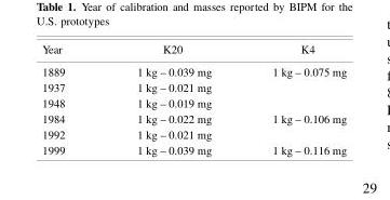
<table><thead><tr><td>Year</td><td>K20</td><td>K4</td></tr></thead><tbody><tr><td>1889</td><td>1 kg – 0.039 mg</td><td>1 kg – 0.075 mg</td></tr><tr><td>1937</td><td>1 kg – 0.021 mg</td><td></td></tr><tr><td>1948</td><td>1 kg – 0.019 mg</td><td></td></tr><tr><td>1984</td><td>1 kg – 0.022 mg</td><td>1 kg – 0.106 mg</td></tr><tr><td>1992</td><td>1 kg – 0.021 mg</td><td></td></tr><tr><td>1999</td><td>1 kg – 0.039 mg</td><td>1 kg – 0.116 mg</td></tr></tbody></table>